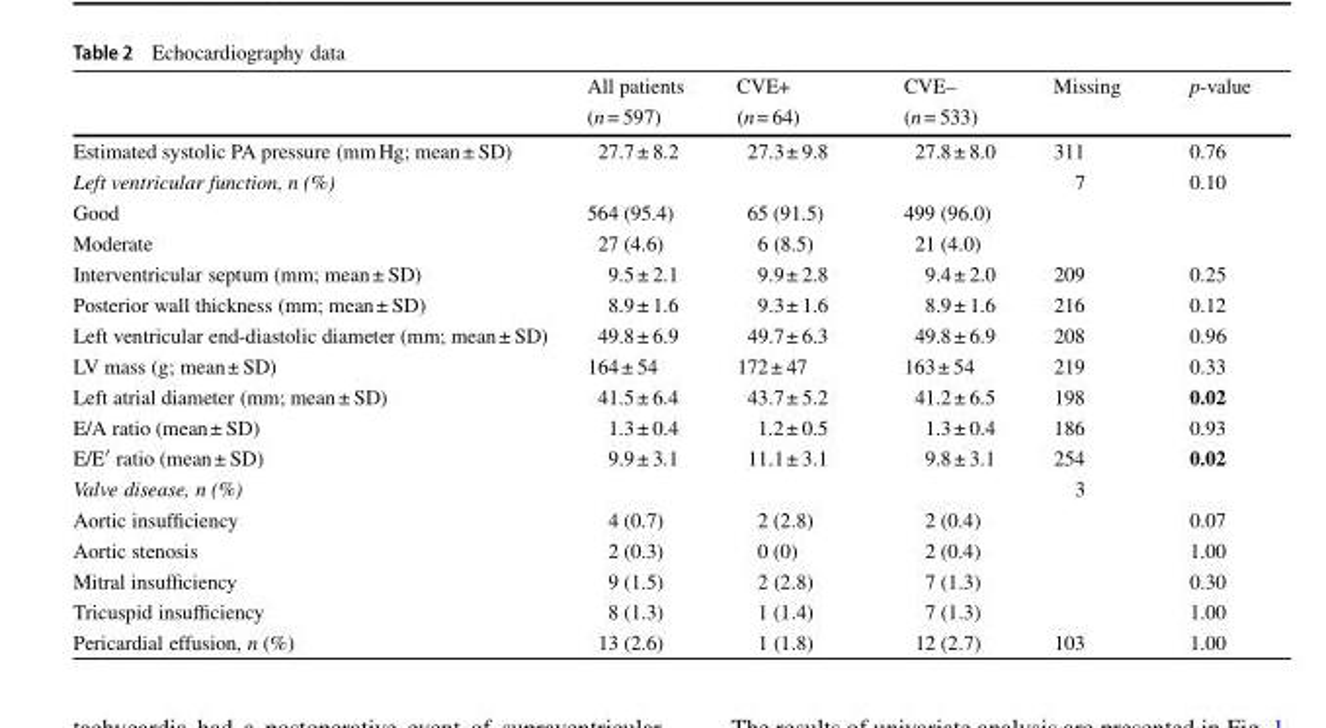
<table><thead><tr><td rowspan="2"></td><td rowspan="2">All patients (n= 597)</td><td rowspan="2">CVE+ (n= 64)</td><td rowspan="2">CVE– (n= 533)</td><td rowspan="2">Missing</td><td rowspan="2">p-value</td></tr><tr></tr></thead><tbody><tr><td>Estimated systolic PA pressure (mmHg; mean± SD)</td><td>27.7± 8.2</td><td>27.3± 9.8</td><td>27.8± 8.0</td><td>311</td><td>0.76</td></tr><tr><td>Left ventricular function, n (%)</td><td></td><td></td><td></td><td>7</td><td>0.10</td></tr><tr><td>Good</td><td>564 (95.4)</td><td>65 (91.5)</td><td>499 (96.0)</td><td></td><td></td></tr><tr><td>Moderate</td><td>27 (4.6)</td><td>6 (8.5)</td><td>21 (4.0)</td><td></td><td></td></tr><tr><td>Interventricular septum (mm; mean± SD)</td><td>9.5± 2.1</td><td>9.9± 2.8</td><td>9.4± 2.0</td><td>209</td><td>0.25</td></tr><tr><td>Posterior wall thickness (mm; mean± SD)</td><td>8.9± 1.6</td><td>9.3± 1.6</td><td>8.9± 1.6</td><td>216</td><td>0.12</td></tr><tr><td>Left ventricular end-diastolic diameter (mm; mean± SD)</td><td>49.8± 6.9</td><td>49.7± 6.3</td><td>49.8± 6.9</td><td>208</td><td>0.96</td></tr><tr><td>LV mass (g; mean± SD)</td><td>164± 54</td><td>172± 47</td><td>163± 54</td><td>219</td><td>0.33</td></tr><tr><td>Left atrial diameter (mm; mean± SD)</td><td>41.5± 6.4</td><td>43.7± 5.2</td><td>41.2± 6.5</td><td>198</td><td>0.02</td></tr><tr><td>E/A ratio (mean± SD)</td><td>1.3± 0.4</td><td>1.2± 0.5</td><td>1.3± 0.4</td><td>186</td><td>0.93</td></tr><tr><td>E/E′ ratio (mean± SD)</td><td>9.9± 3.1</td><td>11.1± 3.1</td><td>9.8± 3.1</td><td>254</td><td>0.02</td></tr><tr><td>Valve disease, n (%)</td><td></td><td></td><td></td><td>3</td><td></td></tr><tr><td>Aortic insufficiency</td><td>4 (0.7)</td><td>2 (2.8)</td><td>2 (0.4)</td><td></td><td>0.07</td></tr><tr><td>Aortic stenosis</td><td>2 (0.3)</td><td>0 (0)</td><td>2 (0.4)</td><td></td><td>1.00</td></tr><tr><td>Mitral insufficiency</td><td>9 (1.5)</td><td>2 (2.8)</td><td>7 (1.3)</td><td></td><td>0.30</td></tr><tr><td>Tricuspid insufficiency</td><td>8 (1.3)</td><td>1 (1.4)</td><td>7 (1.3)</td><td></td><td>1.00</td></tr><tr><td>Pericardial effusion, n (%)</td><td>13 (2.6)</td><td>1 (1.8)</td><td>12 (2.7)</td><td>103</td><td>1.00</td></tr></tbody></table>